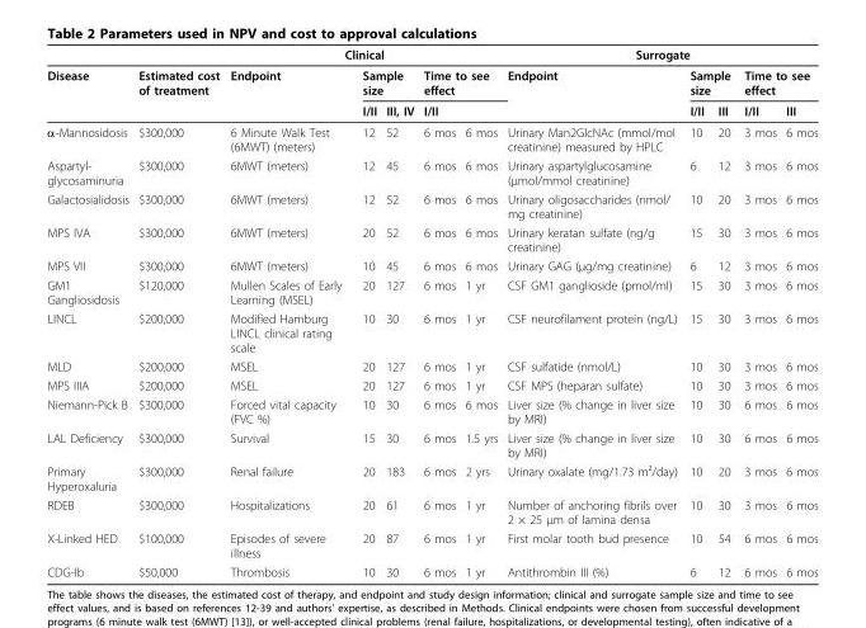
<table><thead><tr><td rowspan="3">Disease</td><td rowspan="3">Estimated cost of treatment</td><td colspan="5">Clinical</td><td colspan="5">Surrogate</td></tr><tr><td rowspan="2">Endpoint</td><td colspan="2">Sample size</td><td colspan="2">Time to see effect</td><td rowspan="2">Endpoint</td><td colspan="2">Sample size</td><td colspan="2">Time to see effect</td></tr><tr><td>I/II</td><td>III, IV</td><td>I/II</td><td></td><td>I/II</td><td>III</td><td>I/II</td><td>III</td></tr></thead><tbody><tr><td>α-Mannosidosis</td><td>$300,000</td><td>6 Minute Walk Test (6MWT) (meters)</td><td>12</td><td>52</td><td>6 mos</td><td>6 mos</td><td>Urinary Man2GlcNAc (mmol/mol creatinine) measured by HPLC</td><td>10</td><td>20</td><td>3 mos</td><td>6 mos</td></tr><tr><td>Aspartyl- glycosaminuria</td><td>$300,000</td><td>6MWT (meters)</td><td>12</td><td>45</td><td>6 mos</td><td>6 mos</td><td>Urinary aspartylglucosamine (μmol/mmol creatinine)</td><td>6</td><td>12</td><td>3 mos</td><td>6 mos</td></tr><tr><td>Galactosialidosis</td><td>$300,000</td><td>6MWT (meters)</td><td>12</td><td>52</td><td>6 mos</td><td>6 mos</td><td>Urinary oligosaccharides (nmol/ mg creatinine)</td><td>10</td><td>20</td><td>3 mos</td><td>6 mos</td></tr><tr><td>MPS IVA</td><td>$300,000</td><td>6MWT (meters)</td><td>20</td><td>52</td><td>6 mos</td><td>6 mos</td><td>Urinary keratan sulfate (ng/g creatinine)</td><td>15</td><td>30</td><td>3 mos</td><td>6 mos</td></tr><tr><td>MPS VII</td><td>$300,000</td><td>6MWT (meters)</td><td>10</td><td>45</td><td>6 mos</td><td>6 mos</td><td>Urinary GAG (μg/mg creatinine)</td><td>6</td><td>12</td><td>3 mos</td><td>6 mos</td></tr><tr><td>GM1 Gangliosidosis</td><td>$120,000</td><td>Mullen Scales of Early Learning (MSEL)</td><td>20</td><td>127</td><td>6 mos</td><td>1 yr</td><td>CSF GM1 ganglioside (pmol/ml)</td><td>15</td><td>30</td><td>3 mos</td><td>6 mos</td></tr><tr><td>LINCL</td><td>$200,000</td><td>Modified Hamburg LINCL clinical rating scale</td><td>10</td><td>30</td><td>6 mos</td><td>1 yr</td><td>CSF neurofilament protein (ng/L)</td><td>15</td><td>30</td><td>3 mos</td><td>6 mos</td></tr><tr><td>MLD</td><td>$200,000</td><td>MSEL</td><td>20</td><td>127</td><td>6 mos</td><td>1 yr</td><td>CSF sulfatide (nmol/L)</td><td>10</td><td>30</td><td>3 mos</td><td>6 mos</td></tr><tr><td>MPS IIIA</td><td>$200,000</td><td>MSEL</td><td>20</td><td>127</td><td>6 mos</td><td>1 yr</td><td>CSF MPS (heparan sulfate)</td><td>10</td><td>30</td><td>3 mos</td><td>6 mos</td></tr><tr><td>Niemann-Pick B</td><td>$300,000</td><td>Forced vital capacity (FVC %)</td><td>10</td><td>30</td><td>6 mos</td><td>6 mos</td><td>Liver size (% change in liver size by MRI)</td><td>10</td><td>30</td><td>6 mos</td><td>6 mos</td></tr><tr><td>LAL Deficiency</td><td>$300,000</td><td>Survival</td><td>15</td><td>30</td><td>6 mos</td><td>1.5 yrs</td><td>Liver size (% change in liver size by MRI)</td><td>10</td><td>30</td><td>6 mos</td><td>6 mos</td></tr><tr><td>Primary Hyperoxaluria</td><td>$300,000</td><td>Renal failure</td><td>20</td><td>183</td><td>6 mos</td><td>2 yrs</td><td>Urinary oxalate (mg/1.73 m²/day)</td><td>10</td><td>20</td><td>3 mos</td><td>6 mos</td></tr><tr><td>RDEB</td><td>$300,000</td><td>Hospitalizations</td><td>20</td><td>61</td><td>6 mos</td><td>1 yr</td><td>Number of anchoring fibrils over 2 × 25 μm of lamina densa</td><td>10</td><td>30</td><td>3 mos</td><td>6 mos</td></tr><tr><td>X-Linked HED</td><td>$100,000</td><td>Episodes of severe illness</td><td>20</td><td>87</td><td>6 mos</td><td>1 yr</td><td>First molar tooth bud presence</td><td>10</td><td>54</td><td>6 mos</td><td>6 mos</td></tr><tr><td>CDG-Ib</td><td>$50,000</td><td>Thrombosis</td><td>10</td><td>30</td><td>6 mos</td><td>1 yr</td><td>Antithrombin III (%)</td><td>6</td><td>12</td><td>6 mos</td><td>6 mos</td></tr></tbody></table>